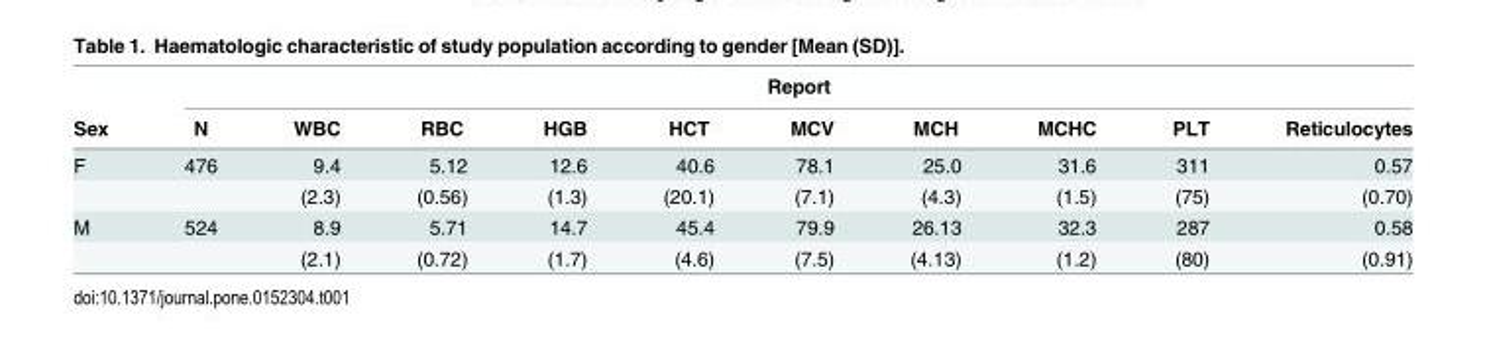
<table><thead><tr><td rowspan="2">Sex</td><td colspan="10">Report</td></tr><tr><td>N</td><td>WBC</td><td>RBC</td><td>HGB</td><td>HCT</td><td>MCV</td><td>MCH</td><td>MCHC</td><td>PLT</td><td>Reticulocytes</td></tr></thead><tbody><tr><td rowspan="2">F</td><td>476</td><td>9.4</td><td>5.12</td><td>12.6</td><td>40.6</td><td>78.1</td><td>25.0</td><td>31.6</td><td>311</td><td>0.57</td></tr><tr><td></td><td>(2.3)</td><td>(0.56)</td><td>(1.3)</td><td>(20.1)</td><td>(7.1)</td><td>(4.3)</td><td>(1.5)</td><td>(75)</td><td>(0.70)</td></tr><tr><td rowspan="2">M</td><td>524</td><td>8.9</td><td>5.71</td><td>14.7</td><td>45.4</td><td>79.9</td><td>26.13</td><td>32.3</td><td>287</td><td>0.58</td></tr><tr><td></td><td>(2.1)</td><td>(0.72)</td><td>(1.7)</td><td>(4.6)</td><td>(7.5)</td><td>(4.13)</td><td>(1.2)</td><td>(80)</td><td>(0.91)</td></tr></tbody></table>